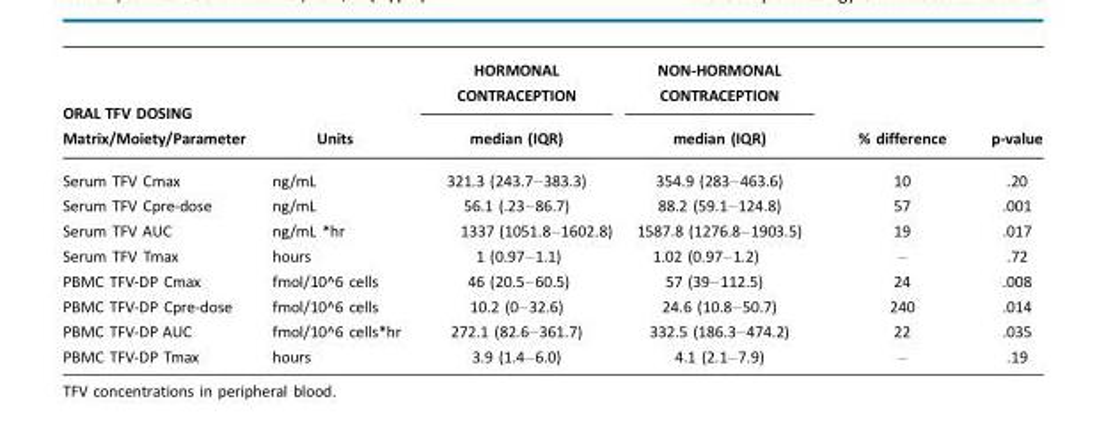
<table><thead><tr><td rowspan="2">ORAL TFV DOSING Matrix/Moiety/Parameter</td><td rowspan="2">Units</td><td rowspan="2">HORMONAL CONTRACEPTION median (IQR)</td><td rowspan="2">NON-HORMONAL CONTRACEPTION median (IQR)</td><td rowspan="2">% difference</td><td rowspan="2">p-value</td></tr><tr></tr></thead><tbody><tr><td>Serum TFV Cmax</td><td>ng/mL</td><td>321.3 (243.7–383.3)</td><td>354.9 (283–463.6)</td><td>10</td><td>.20</td></tr><tr><td>Serum TFV Cpre-dose</td><td>ng/mL</td><td>56.1 (.23–86.7)</td><td>88.2 (59.1–124.8)</td><td>57</td><td>.001</td></tr><tr><td>Serum TFV AUC</td><td>ng/mL *hr</td><td>1337 (1051.8–1602.8)</td><td>1587.8 (1276.8–1903.5)</td><td>19</td><td>.017</td></tr><tr><td>Serum TFV Tmax</td><td>hours</td><td>1 (0.97–1.1)</td><td>1.02 (0.97–1.2)</td><td>–</td><td>.72</td></tr><tr><td>PBMC TFV-DP Cmax</td><td>fmol/10^6 cells</td><td>46 (20.5–60.5)</td><td>57 (39–112.5)</td><td>24</td><td>.008</td></tr><tr><td>PBMC TFV-DP Cpre-dose</td><td>fmol/10^6 cells</td><td>10.2 (0–32.6)</td><td>24.6 (10.8–50.7)</td><td>240</td><td>.014</td></tr><tr><td>PBMC TFV-DP AUC</td><td>fmol/10^6 cells*hr</td><td>272.1 (82.6–361.7)</td><td>332.5 (186.3–474.2)</td><td>22</td><td>.035</td></tr><tr><td>PBMC TFV-DP Tmax</td><td>hours</td><td>3.9 (1.4–6.0)</td><td>4.1 (2.1–7.9)</td><td>–</td><td>.19</td></tr></tbody></table>